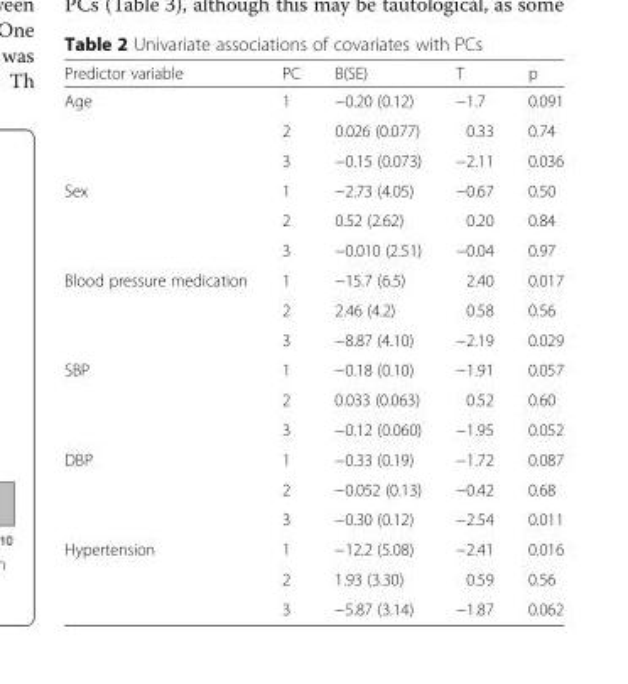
<table><thead><tr><td>Predictor variable</td><td>PC</td><td>B(SE)</td><td>T</td><td>p</td></tr></thead><tbody><tr><td rowspan="3">Age</td><td>1</td><td>−0.20 (0.12)</td><td>−1.7</td><td>0.091</td></tr><tr><td>2</td><td>0.026 (0.077)</td><td>0.33</td><td>0.74</td></tr><tr><td>3</td><td>−0.15 (0.073)</td><td>−2.11</td><td>0.036</td></tr><tr><td rowspan="3">Sex</td><td>1</td><td>−2.73 (4.05)</td><td>−0.67</td><td>0.50</td></tr><tr><td>2</td><td>0.52 (2.62)</td><td>0.20</td><td>0.84</td></tr><tr><td>3</td><td>−0.010 (2.51)</td><td>−0.04</td><td>0.97</td></tr><tr><td rowspan="3">Blood pressure medication</td><td>1</td><td>−15.7 (6.5)</td><td>2.40</td><td>0.017</td></tr><tr><td>2</td><td>2.46 (4.2)</td><td>0.58</td><td>0.56</td></tr><tr><td>3</td><td>−8.87 (4.10)</td><td>−2.19</td><td>0.029</td></tr><tr><td rowspan="3">SBP</td><td>1</td><td>−0.18 (0.10)</td><td>−1.91</td><td>0.057</td></tr><tr><td>2</td><td>0.033 (0.063)</td><td>0.52</td><td>0.60</td></tr><tr><td>3</td><td>−0.12 (0.060)</td><td>−1.95</td><td>0.052</td></tr><tr><td rowspan="3">DBP</td><td>1</td><td>−0.33 (0.19)</td><td>−1.72</td><td>0.087</td></tr><tr><td>2</td><td>−0.052 (0.13)</td><td>−0.42</td><td>0.68</td></tr><tr><td>3</td><td>−0.30 (0.12)</td><td>−2.54</td><td>0.011</td></tr><tr><td rowspan="3">Hypertension</td><td>1</td><td>−12.2 (5.08)</td><td>−2.41</td><td>0.016</td></tr><tr><td>2</td><td>1.93 (3.30)</td><td>0.59</td><td>0.56</td></tr><tr><td>3</td><td>−5.87 (3.14)</td><td>−1.87</td><td>0.062</td></tr></tbody></table>